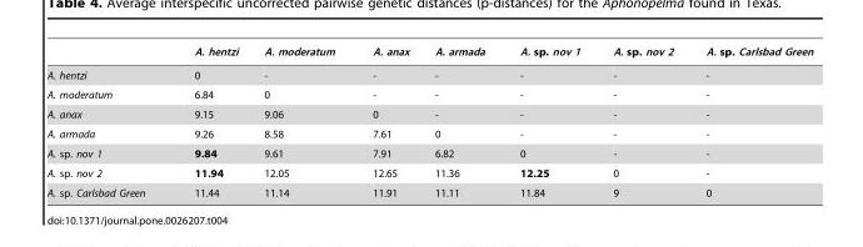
<table><thead><tr><td></td><td>A. hentzi</td><td>A. moderatum</td><td>A. anax</td><td>A. armada</td><td>A. sp. nov 1</td><td>A. sp. nov 2</td><td>A. sp. Carlsbad Green</td></tr></thead><tbody><tr><td>A. hentzi</td><td>0</td><td>-</td><td>-</td><td>-</td><td>-</td><td>-</td><td>-</td></tr><tr><td>A. moderatum</td><td>6.84</td><td>0</td><td>-</td><td>-</td><td>-</td><td>-</td><td>-</td></tr><tr><td>A. anax</td><td>9.15</td><td>9.06</td><td>0</td><td>-</td><td>-</td><td>-</td><td>-</td></tr><tr><td>A. armada</td><td>9.26</td><td>8.58</td><td>7.61</td><td>0</td><td>-</td><td>-</td><td>-</td></tr><tr><td>A. sp. nov 1</td><td>9.84</td><td>9.61</td><td>7.91</td><td>6.82</td><td>0</td><td>-</td><td>-</td></tr><tr><td>A. sp. nov 2</td><td>11.94</td><td>12.05</td><td>12.65</td><td>11.36</td><td>12.25</td><td>0</td><td>-</td></tr><tr><td>A. sp. Carlsbad Green</td><td>11.44</td><td>11.14</td><td>11.91</td><td>11.11</td><td>11.84</td><td>9</td><td>0</td></tr></tbody></table>